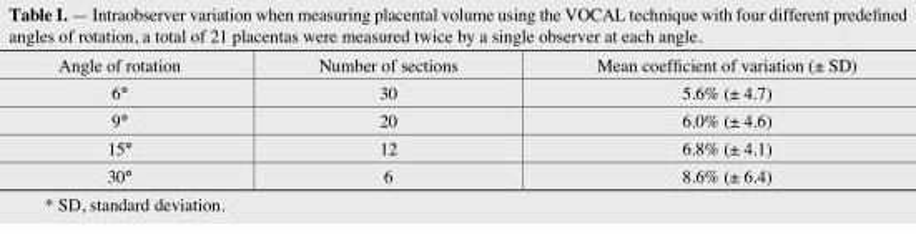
<table><thead><tr><td>Angle of rotation</td><td>Number of sections</td><td>Mean coefficient of variation (± SD)</td></tr></thead><tbody><tr><td>6°</td><td>30</td><td>5.6% (± 4.7)</td></tr><tr><td>9°</td><td>20</td><td>6.0% (± 4.6)</td></tr><tr><td>15°</td><td>12</td><td>6.8% (± 4.1)</td></tr><tr><td>30°</td><td>6</td><td>8.6% (± 6.4)</td></tr></tbody></table>